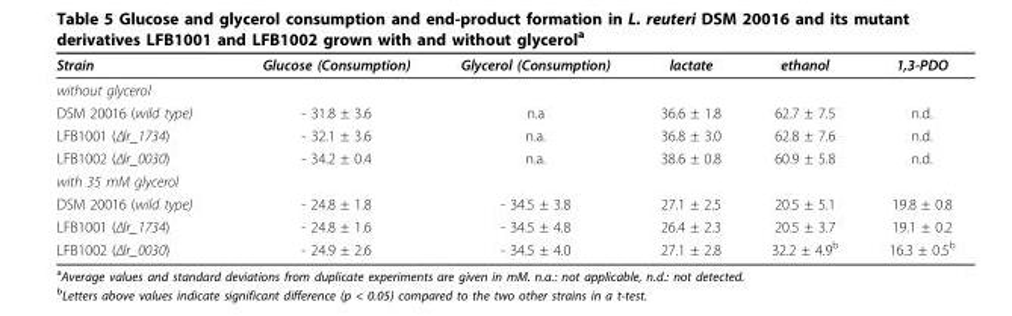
<table><thead><tr><td>Strain</td><td>Glucose (Consumption)</td><td>Glycerol (Consumption)</td><td>lactate</td><td>ethanol</td><td>1,3-PDO</td></tr></thead><tbody><tr><td colspan="6">without glycerol</td></tr><tr><td>DSM 20016 (wild type)</td><td>- 31.8 ± 3.6</td><td>n.a</td><td>36.6 ± 1.8</td><td>62.7 ± 7.5</td><td>n.d.</td></tr><tr><td>LFB1001 (Δlr_1734)</td><td>- 32.1 ± 3.6</td><td>n.a.</td><td>36.8 ± 3.0</td><td>62.8 ± 7.6</td><td>n.d.</td></tr><tr><td>LFB1002 (Δlr_0030)</td><td>- 34.2 ± 0.4</td><td>n.a.</td><td>38.6 ± 0.8</td><td>60.9 ± 5.8</td><td>n.d.</td></tr><tr><td colspan="6">with 35 mM glycerol</td></tr><tr><td>DSM 20016 (wild type)</td><td>- 24.8 ± 1.8</td><td>- 34.5 ± 3.8</td><td>27.1 ± 2.5</td><td>20.5 ± 5.1</td><td>19.8 ± 0.8</td></tr><tr><td>LFB1001 (Δlr_1734)</td><td>- 24.8 ± 1.6</td><td>- 34.5 ± 4.8</td><td>26.4 ± 2.3</td><td>20.5 ± 3.7</td><td>19.1 ± 0.2</td></tr><tr><td>LFB1002 (Δlr_0030)</td><td>- 24.9 ± 2.6</td><td>- 34.5 ± 4.0</td><td>27.1 ± 2.8</td><td>32.2 ± 4.9<sup>b</sup></td><td>16.3 ± 0.5<sup>b</sup></td></tr></tbody></table>